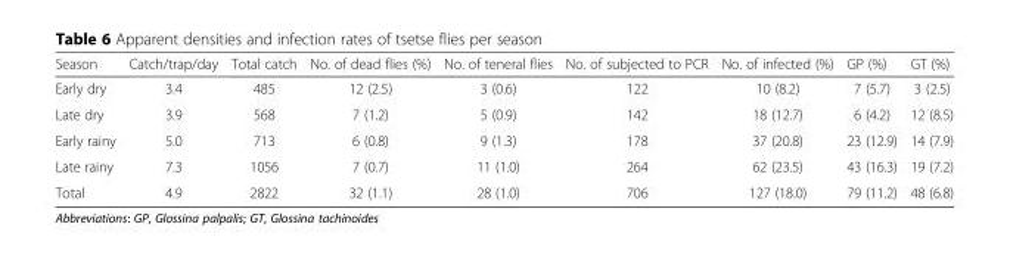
<table><thead><tr><td>Season</td><td>Catch/trap/day</td><td>Total catch</td><td>No. of dead flies (%)</td><td>No. of teneral flies</td><td>No. of subjected to PCR</td><td>No. of infected (%)</td><td>GP (%)</td><td>GT (%)</td></tr></thead><tbody><tr><td>Early dry</td><td>3.4</td><td>485</td><td>12 (2.5)</td><td>3 (0.6)</td><td>122</td><td>10 (8.2)</td><td>7 (5.7)</td><td>3 (2.5)</td></tr><tr><td>Late dry</td><td>3.9</td><td>568</td><td>7 (1.2)</td><td>5 (0.9)</td><td>142</td><td>18 (12.7)</td><td>6 (4.2)</td><td>12 (8.5)</td></tr><tr><td>Early rainy</td><td>5.0</td><td>713</td><td>6 (0.8)</td><td>9 (1.3)</td><td>178</td><td>37 (20.8)</td><td>23 (12.9)</td><td>14 (7.9)</td></tr><tr><td>Late rainy</td><td>7.3</td><td>1056</td><td>7 (0.7)</td><td>11 (1.0)</td><td>264</td><td>62 (23.5)</td><td>43 (16.3)</td><td>19 (7.2)</td></tr><tr><td>Total</td><td>4.9</td><td>2822</td><td>32 (1.1)</td><td>28 (1.0)</td><td>706</td><td>127 (18.0)</td><td>79 (11.2)</td><td>48 (6.8)</td></tr></tbody></table>